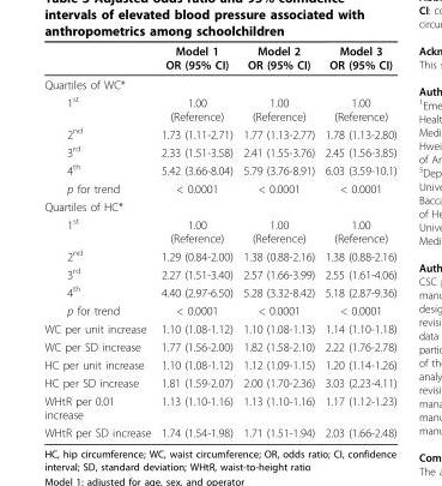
<table><thead><tr><td></td><td>Model 1 OR (95% CI)</td><td>Model 2 OR (95% CI)</td><td>Model 3 OR (95% CI)</td></tr></thead><tbody><tr><td colspan="4">Quartiles of WC*</td></tr><tr><td>1<sup>st</sup></td><td>1.00 (Reference)</td><td>1.00 (Reference)</td><td>1.00 (Reference)</td></tr><tr><td>2<sup>nd</sup></td><td>1.73 (1.11-2.71)</td><td>1.77 (1.13-2.77)</td><td>1.78 (1.13-2.80)</td></tr><tr><td>3<sup>rd</sup></td><td>2.33 (1.51-3.58)</td><td>2.41 (1.55-3.76)</td><td>2.45 (1.56-3.85)</td></tr><tr><td>4<sup>th</sup></td><td>5.42 (3.66-8.04)</td><td>5.79 (3.76-8.91)</td><td>6.03 (3.59-10.1)</td></tr><tr><td>p for trend</td><td>&lt; 0.0001</td><td>&lt; 0.0001</td><td>&lt; 0.0001</td></tr><tr><td colspan="4">Quartiles of HC*</td></tr><tr><td>1<sup>st</sup></td><td>1.00 (Reference)</td><td>1.00 (Reference)</td><td>1.00 (Reference)</td></tr><tr><td>2<sup>nd</sup></td><td>1.29 (0.84-2.00)</td><td>1.38 (0.88-2.16)</td><td>1.38 (0.88-2.16)</td></tr><tr><td>3<sup>rd</sup></td><td>2.27 (1.51-3.40)</td><td>2.57 (1.66-3.99)</td><td>2.55 (1.61-4.06)</td></tr><tr><td>4<sup>th</sup></td><td>4.40 (2.97-6.50)</td><td>5.28 (3.32-8.42)</td><td>5.18 (2.87-9.36)</td></tr><tr><td>p for trend</td><td>&lt; 0.0001</td><td>&lt; 0.0001</td><td>&lt; 0.0001</td></tr><tr><td>WC per unit increase</td><td>1.10 (1.08-1.12)</td><td>1.10 (1.08-1.13)</td><td>1.14 (1.10-1.18)</td></tr><tr><td>WC per SD increase</td><td>1.77 (1.56-2.00)</td><td>1.82 (1.58-2.10)</td><td>2.22 (1.76-2.78)</td></tr><tr><td>HC per unit increase</td><td>1.10 (1.08-1.12)</td><td>1.12 (1.09-1.15)</td><td>1.20 (1.14-1.26)</td></tr><tr><td>HC per SD increase</td><td>1.81 (1.59-2.07)</td><td>2.00 (1.70-2.36)</td><td>3.03 (2.23-4.11)</td></tr><tr><td>WHtR per 0.01 increase</td><td>1.13 (1.10-1.16)</td><td>1.13 (1.10-1.16)</td><td>1.17 (1.12-1.23)</td></tr><tr><td>WHtR per SD increase</td><td>1.74 (1.54-1.98)</td><td>1.71 (1.51-1.94)</td><td>2.03 (1.66-2.48)</td></tr></tbody></table>